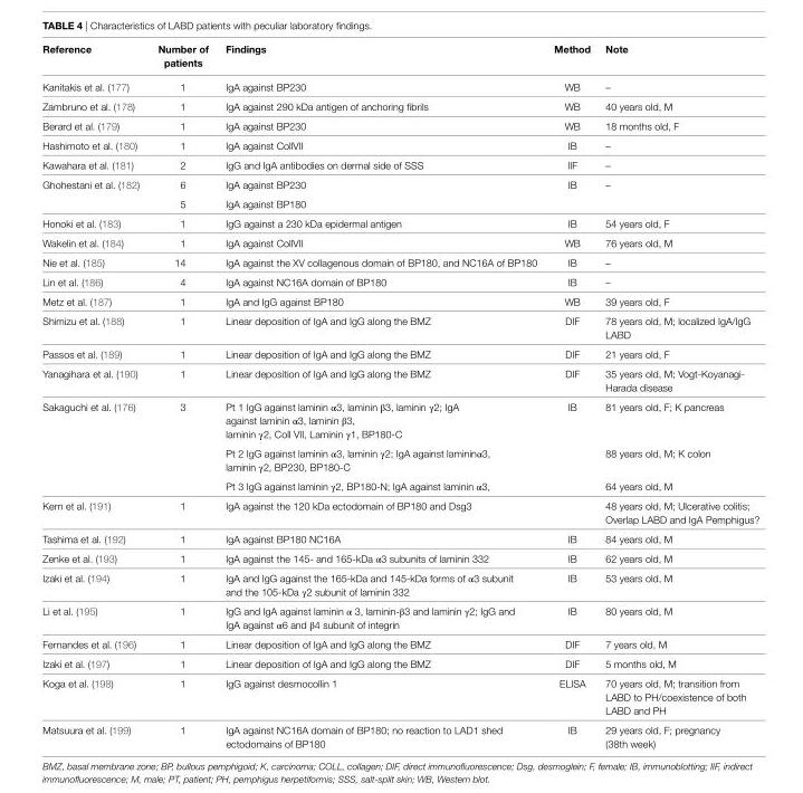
<table><thead><tr><td>Reference</td><td>Number of patients</td><td>Findings</td><td>Method</td><td>Note</td></tr></thead><tbody><tr><td>Kanitakis et al. (177)</td><td>1</td><td>IgA against BP230</td><td>WB</td><td>–</td></tr><tr><td>Zambruno et al. (178)</td><td>1</td><td>IgA against 290 kDa antigen of anchoring fibrils</td><td>WB</td><td>40 years old, M</td></tr><tr><td>Berard et al. (179)</td><td>1</td><td>IgA against BP230</td><td>WB</td><td>18 months old, F</td></tr><tr><td>Hashimoto et al. (180)</td><td>1</td><td>IgA against CollVII</td><td>IB</td><td>–</td></tr><tr><td>Kawahara et al. (181)</td><td>2</td><td>IgG and IgA antibodies on dermal side of SSS</td><td>IIF</td><td>–</td></tr><tr><td rowspan="2">Ghohestani et al. (182)</td><td>6</td><td>IgA against BP230</td><td rowspan="2">IB</td><td rowspan="2">–</td></tr><tr><td>5</td><td>IgA against BP180</td></tr><tr><td>Honoki et al. (183)</td><td>1</td><td>IgG against a 230 kDa epidermal antigen</td><td>IB</td><td>54 years old, F</td></tr><tr><td>Wakelin et al. (184)</td><td>1</td><td>IgA against CollVII</td><td>WB</td><td>76 years old, M</td></tr><tr><td>Nie et al. (185)</td><td>14</td><td>IgA against the XV collagenous domain of BP180, and NC16A of BP180</td><td>IB</td><td>–</td></tr><tr><td>Lin et al. (186)</td><td>4</td><td>IgA against NC16A domain of BP180</td><td>IB</td><td>–</td></tr><tr><td>Metz et al. (187)</td><td>1</td><td>IgA and IgG against BP180</td><td>WB</td><td>39 years old, F</td></tr><tr><td>Shimizu et al. (188)</td><td>1</td><td>Linear deposition of IgA and IgG along the BMZ</td><td>DIF</td><td>78 years old, M; localized IgA/IgG LABD</td></tr><tr><td>Passos et al. (189)</td><td>1</td><td>Linear deposition of IgA and IgG along the BMZ</td><td>DIF</td><td>21 years old, F</td></tr><tr><td>Yanagihara et al. (190)</td><td>1</td><td>Linear deposition of IgA and IgG along the BMZ</td><td>DIF</td><td>35 years old, M; Vogt-Koyanagi- Harada disease</td></tr><tr><td rowspan="3">Sakaguchi et al. (176)</td><td rowspan="3">3</td><td>Pt 1 IgG against laminin α3, laminin β3, laminin γ2; IgA against laminin α3, laminin β3, laminin γ2, Coll VII, Laminin γ1, BP180-C</td><td rowspan="3">IB</td><td>81 years old, F; K pancreas</td></tr><tr><td>Pt 2 IgG against laminin α3, laminin γ2; IgA against lamininα3, laminin γ2, BP230, BP180-C</td><td>88 years old, M; K colon</td></tr><tr><td>Pt 3 IgG against laminin γ2, BP180-N; IgA against laminin α3,</td><td>64 years old, M</td></tr><tr><td>Kern et al. (191)</td><td>1</td><td>IgA against the 120 kDa ectodomain of BP180 and Dsg3</td><td></td><td>48 years old, M; Ulcerative colitis; Overlap LABD and IgA Pemphigus?</td></tr><tr><td>Tashima et al. (192)</td><td>1</td><td>IgA against BP180 NC16A</td><td>IB</td><td>84 years old, M</td></tr><tr><td>Zenke et al. (193)</td><td>1</td><td>IgA against the 145- and 165-kDa α3 subunits of laminin 332</td><td>IB</td><td>62 years old, M</td></tr><tr><td>Izaki et al. (194)</td><td>1</td><td>IgA and IgG against the 165-kDa and 145-kDa forms of α3 subunit and the 105-kDa γ2 subunit of laminin 332</td><td>IB</td><td>53 years old, M</td></tr><tr><td>Li et al. (195)</td><td>1</td><td>IgG and IgA against laminin α 3, laminin-β3 and laminin γ2; IgG and IgA against α6 and β4 subunit of integrin</td><td>IB</td><td>80 years old, M</td></tr><tr><td>Fernandes et al. (196)</td><td>1</td><td>Linear deposition of IgA and IgG along the BMZ</td><td>DIF</td><td>7 years old, M</td></tr><tr><td>Izaki et al. (197)</td><td>1</td><td>Linear deposition of IgA and IgG along the BMZ</td><td>DIF</td><td>5 months old, M</td></tr><tr><td>Koga et al. (198)</td><td>1</td><td>IgG against desmocollin 1</td><td>ELISA</td><td>70 years old, M; transition from LABD to PH/coexistence of both LABD and PH</td></tr><tr><td>Matsuura et al. (199)</td><td>1</td><td>IgA against NC16A domain of BP180; no reaction to LAD1 shed ectodomains of BP180</td><td>IB</td><td>29 years old, F; pregnancy (38th week)</td></tr></tbody></table>